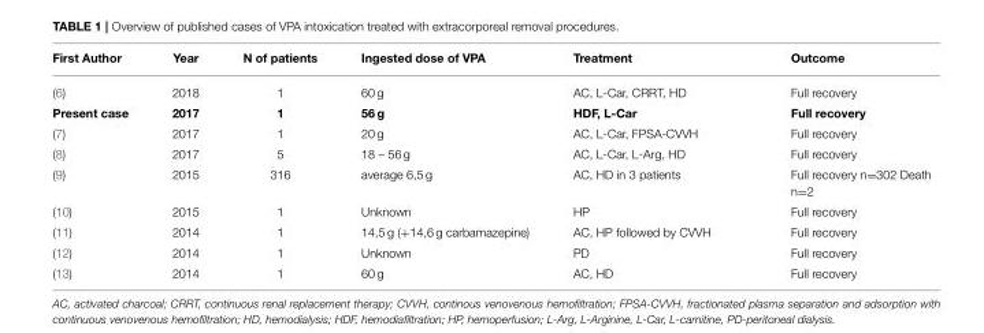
<table><thead><tr><td>First Author</td><td>Year</td><td>N of patients</td><td>Ingested dose of VPA</td><td>Treatment</td><td>Outcome</td></tr></thead><tbody><tr><td>(6)</td><td>2018</td><td>1</td><td>60 g</td><td>AC, L-Car, CRRT, HD</td><td>Full recovery</td></tr><tr><td>Present case</td><td>2017</td><td>1</td><td>56 g</td><td>HDF, L-Car</td><td>Full recovery</td></tr><tr><td>(7)</td><td>2017</td><td>1</td><td>20 g</td><td>AC, L-Car, FPSA-CVVH</td><td>Full recovery</td></tr><tr><td>(8)</td><td>2017</td><td>5</td><td>18 – 56 g</td><td>AC, L-Car, L-Arg, HD</td><td>Full recovery</td></tr><tr><td>(9)</td><td>2015</td><td>316</td><td>average 6,5 g</td><td>AC, HD in 3 patients</td><td>Full recovery n=302 Death n=2</td></tr><tr><td>(10)</td><td>2015</td><td>1</td><td>Unknown</td><td>HP</td><td>Full recovery</td></tr><tr><td>(11)</td><td>2014</td><td>1</td><td>14,5 g (+14,6 g carbamazepine)</td><td>AC, HP followed by CVVH</td><td>Full recovery</td></tr><tr><td>(12)</td><td>2014</td><td>1</td><td>Unknown</td><td>PD</td><td>Full recovery</td></tr><tr><td>(13)</td><td>2014</td><td>1</td><td>60 g</td><td>AC, HD</td><td>Full recovery</td></tr></tbody></table>